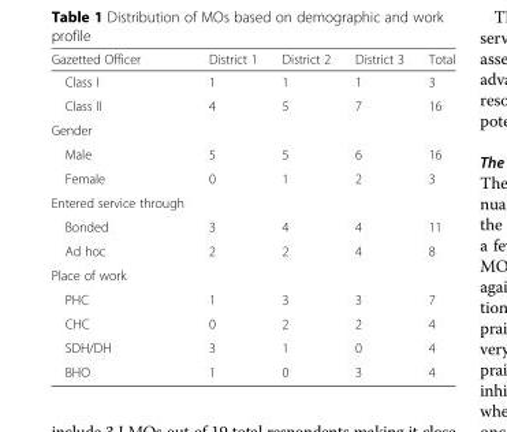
<table><thead><tr><td>Gazetted Officer</td><td>District 1</td><td>District 2</td><td>District 3</td><td>Total</td></tr></thead><tbody><tr><td>Class I</td><td>1</td><td>1</td><td>1</td><td>3</td></tr><tr><td>Class II</td><td>4</td><td>5</td><td>7</td><td>16</td></tr><tr><td colspan="5">Gender</td></tr><tr><td>Male</td><td>5</td><td>5</td><td>6</td><td>16</td></tr><tr><td>Female</td><td>0</td><td>1</td><td>2</td><td>3</td></tr><tr><td colspan="5">Entered service through</td></tr><tr><td>Bonded</td><td>3</td><td>4</td><td>4</td><td>11</td></tr><tr><td>Ad hoc</td><td>2</td><td>2</td><td>4</td><td>8</td></tr><tr><td colspan="5">Place of work</td></tr><tr><td>PHC</td><td>1</td><td>3</td><td>3</td><td>7</td></tr><tr><td>CHC</td><td>0</td><td>2</td><td>2</td><td>4</td></tr><tr><td>SDH/DH</td><td>3</td><td>1</td><td>0</td><td>4</td></tr><tr><td>BHO</td><td>1</td><td>0</td><td>3</td><td>4</td></tr></tbody></table>